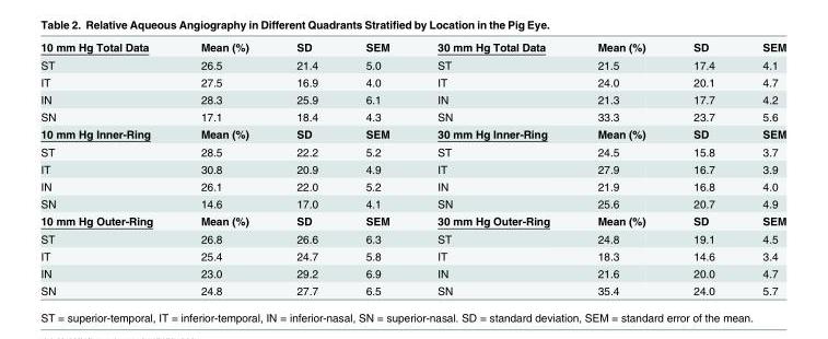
<table><tbody><tr><td>10 mm Hg Total Data</td><td>Mean (%)</td><td>SD</td><td>SEM</td><td>30 mm Hg Total Data</td><td>Mean (%)</td><td>SD</td><td>SEM</td></tr><tr><td>ST</td><td>26.5</td><td>21.4</td><td>5.0</td><td>ST</td><td>21.5</td><td>17.4</td><td>4.1</td></tr><tr><td>IT</td><td>27.5</td><td>16.9</td><td>4.0</td><td>IT</td><td>24.0</td><td>20.1</td><td>4.7</td></tr><tr><td>IN</td><td>28.3</td><td>25.9</td><td>6.1</td><td>IN</td><td>21.3</td><td>17.7</td><td>4.2</td></tr><tr><td>SN</td><td>17.1</td><td>18.4</td><td>4.3</td><td>SN</td><td>33.3</td><td>23.7</td><td>5.6</td></tr><tr><td>10 mm Hg Inner-Ring</td><td>Mean (%)</td><td>SD</td><td>SEM</td><td>30 mm Hg Inner-Ring</td><td>Mean (%)</td><td>SD</td><td>SEM</td></tr><tr><td>ST</td><td>28.5</td><td>22.2</td><td>5.2</td><td>ST</td><td>24.5</td><td>15.8</td><td>3.7</td></tr><tr><td>IT</td><td>30.8</td><td>20.9</td><td>4.9</td><td>IT</td><td>27.9</td><td>16.7</td><td>3.9</td></tr><tr><td>IN</td><td>26.1</td><td>22.0</td><td>5.2</td><td>IN</td><td>21.9</td><td>16.8</td><td>4.0</td></tr><tr><td>SN</td><td>14.6</td><td>17.0</td><td>4.1</td><td>SN</td><td>25.6</td><td>20.7</td><td>4.9</td></tr><tr><td>10 mm Hg Outer-Ring</td><td>Mean (%)</td><td>SD</td><td>SEM</td><td>30 mm Hg Outer-Ring</td><td>Mean (%)</td><td>SD</td><td>SEM</td></tr><tr><td>ST</td><td>26.8</td><td>26.6</td><td>6.3</td><td>ST</td><td>24.8</td><td>19.1</td><td>4.5</td></tr><tr><td>IT</td><td>25.4</td><td>24.7</td><td>5.8</td><td>IT</td><td>18.3</td><td>14.6</td><td>3.4</td></tr><tr><td>IN</td><td>23.0</td><td>29.2</td><td>6.9</td><td>IN</td><td>21.6</td><td>20.0</td><td>4.7</td></tr><tr><td>SN</td><td>24.8</td><td>27.7</td><td>6.5</td><td>SN</td><td>35.4</td><td>24.0</td><td>5.7</td></tr></tbody></table>